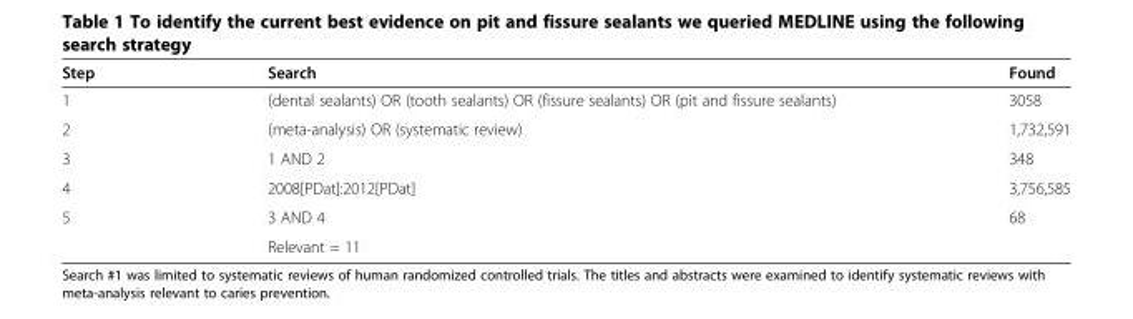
<table><thead><tr><td>Step</td><td>Search</td><td>Found</td></tr></thead><tbody><tr><td>1</td><td>(dental sealants) OR (tooth sealants) OR (fissure sealants) OR (pit and fissure sealants)</td><td>3058</td></tr><tr><td>2</td><td>(meta-analysis) OR (systematic review)</td><td>1,732,591</td></tr><tr><td>3</td><td>1 AND 2</td><td>348</td></tr><tr><td>4</td><td>2008[PDat]:2012[PDat]</td><td>3,756,585</td></tr><tr><td rowspan="2">5</td><td>3 AND 4</td><td>68</td></tr><tr><td>Relevant = 11</td><td></td></tr></tbody></table>